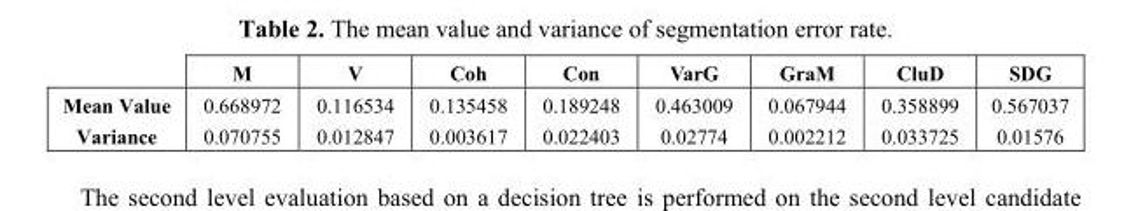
<table><thead><tr><td></td><td>M</td><td>V</td><td>Coh</td><td>Con</td><td>VarG</td><td>GraM</td><td>CluD</td><td>SDG</td></tr></thead><tbody><tr><td>Mean Value</td><td>0.668972</td><td>0.116534</td><td>0.135458</td><td>0.189248</td><td>0.463009</td><td>0.067944</td><td>0.358899</td><td>0.567037</td></tr><tr><td>Variance</td><td>0.070755</td><td>0.012847</td><td>0.003617</td><td>0.022403</td><td>0.02774</td><td>0.002212</td><td>0.033725</td><td>0.01576</td></tr></tbody></table>